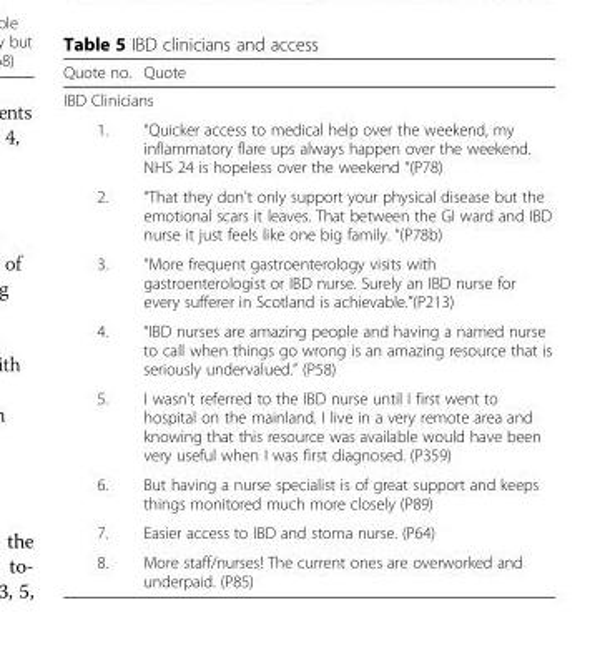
<table><thead><tr><td>Quote no.</td><td>Quote</td></tr></thead><tbody><tr><td colspan="2">IBD Clinicians</td></tr><tr><td>1.</td><td>“Quicker access to medical help over the weekend, my inflammatory flare ups always happen over the weekend. NHS 24 is hopeless over the weekend “(P78)</td></tr><tr><td>2.</td><td>“That they don&#x27;t only support your physical disease but the emotional scars it leaves. That between the GI ward and IBD nurse it just feels like one big family. “(P78b)</td></tr><tr><td>3.</td><td>“More frequent gastroenterology visits with gastroenterologist or IBD nurse. Surely an IBD nurse for every sufferer in Scotland is achievable.”(P213)</td></tr><tr><td>4.</td><td>“IBD nurses are amazing people and having a named nurse to call when things go wrong is an amazing resource that is seriously undervalued.” (P58)</td></tr><tr><td>5.</td><td>I wasn&#x27;t referred to the IBD nurse until I first went to hospital on the mainland. I live in a very remote area and knowing that this resource was available would have been very useful when I was first diagnosed. (P359)</td></tr><tr><td>6.</td><td>But having a nurse specialist is of great support and keeps things monitored much more closely (P89)</td></tr><tr><td>7.</td><td>Easier access to IBD and stoma nurse. (P64)</td></tr><tr><td>8.</td><td>More staff/nurses! The current ones are overworked and underpaid. (P85)</td></tr></tbody></table>